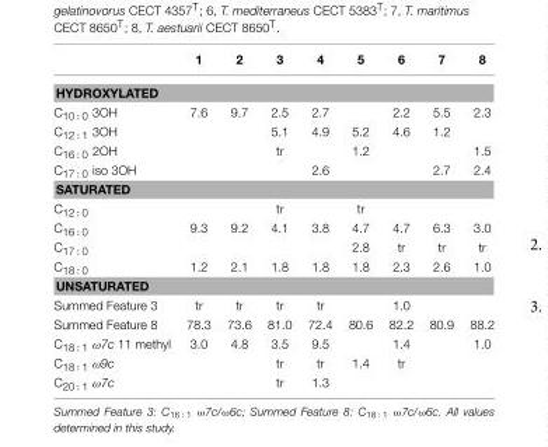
<table><thead><tr><td></td><td>1</td><td>2</td><td>3</td><td>4</td><td>5</td><td>6</td><td>7</td><td>8</td></tr></thead><tbody><tr><td colspan="9">HYDROXYLATED</td></tr><tr><td>C<sub>10 : 0</sub> 3OH</td><td>7.6</td><td>9.7</td><td>2.5</td><td>2.7</td><td></td><td>2.2</td><td>5.5</td><td>2.3</td></tr><tr><td>C<sub>12 : 1</sub> 3OH</td><td></td><td></td><td>5.1</td><td>4.9</td><td>5.2</td><td>4.6</td><td>1.2</td><td></td></tr><tr><td>C<sub>16 : 0</sub> 2OH</td><td></td><td></td><td>tr</td><td></td><td>1.2</td><td></td><td></td><td>1.5</td></tr><tr><td>C<sub>17 : 0</sub> iso 3OH</td><td></td><td></td><td></td><td>2.6</td><td></td><td></td><td>2.7</td><td>2.4</td></tr><tr><td colspan="9">SATURATED</td></tr><tr><td>C<sub>12 : 0</sub></td><td></td><td></td><td>tr</td><td></td><td>tr</td><td></td><td></td><td></td></tr><tr><td>C<sub>16 : 0</sub></td><td>9.3</td><td>9.2</td><td>4.1</td><td>3.8</td><td>4.7</td><td>4.7</td><td>6.3</td><td>3.0</td></tr><tr><td>C<sub>17 : 0</sub></td><td></td><td></td><td></td><td></td><td>2.8</td><td>tr</td><td>tr</td><td>tr</td></tr><tr><td>C<sub>18 : 0</sub></td><td>1.2</td><td>2.1</td><td>1.8</td><td>1.8</td><td>1.8</td><td>2.3</td><td>2.6</td><td>1.0</td></tr><tr><td colspan="9">UNSATURATED</td></tr><tr><td>Summed Feature 3</td><td>tr</td><td>tr</td><td>tr</td><td>tr</td><td></td><td>1.0</td><td></td><td></td></tr><tr><td>Summed Feature 8</td><td>78.3</td><td>73.6</td><td>81.0</td><td>72.4</td><td>80.6</td><td>82.2</td><td>80.9</td><td>88.2</td></tr><tr><td>C<sub>18 : 1</sub> ω7c 11 methyl</td><td>3.0</td><td>4.8</td><td>3.5</td><td>9.5</td><td></td><td>1.4</td><td></td><td>1.0</td></tr><tr><td>C<sub>18 : 1</sub> ω9c</td><td></td><td></td><td>tr</td><td>tr</td><td>1.4</td><td>tr</td><td></td><td></td></tr><tr><td>C<sub>20 : 1</sub> ω7c</td><td></td><td></td><td>tr</td><td>1.3</td><td></td><td></td><td></td><td></td></tr></tbody></table>